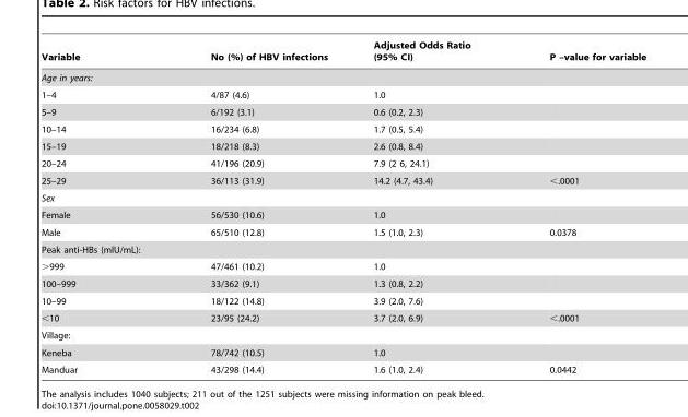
<table><thead><tr><td>Variable</td><td>No (%) of HBV infections</td><td>Adjusted Odds Ratio (95% CI)</td><td>P –value for variable</td></tr></thead><tbody><tr><td colspan="4">Age in years:</td></tr><tr><td>1–4</td><td>4/87 (4.6)</td><td>1.0</td><td></td></tr><tr><td>5–9</td><td>6/192 (3.1)</td><td>0.6 (0.2, 2.3)</td><td></td></tr><tr><td>10–14</td><td>16/234 (6.8)</td><td>1.7 (0.5, 5.4)</td><td></td></tr><tr><td>15–19</td><td>18/218 (8.3)</td><td>2.6 (0.8, 8.4)</td><td></td></tr><tr><td>20–24</td><td>41/196 (20.9)</td><td>7.9 (2 6, 24.1)</td><td></td></tr><tr><td>25–29</td><td>36/113 (31.9)</td><td>14.2 (4.7, 43.4)</td><td>&lt;.0001</td></tr><tr><td colspan="4">Sex</td></tr><tr><td>Female</td><td>56/530 (10.6)</td><td>1.0</td><td></td></tr><tr><td>Male</td><td>65/510 (12.8)</td><td>1.5 (1.0, 2.3)</td><td>0.0378</td></tr><tr><td colspan="4">Peak anti-HBs (mlU/mL):</td></tr><tr><td>&gt;999</td><td>47/461 (10.2)</td><td>1.0</td><td></td></tr><tr><td>100–999</td><td>33/362 (9.1)</td><td>1.3 (0.8, 2.2)</td><td></td></tr><tr><td>10–99</td><td>18/122 (14.8)</td><td>3.9 (2.0, 7.6)</td><td></td></tr><tr><td>&lt;10</td><td>23/95 (24.2)</td><td>3.7 (2.0, 6.9)</td><td>&lt;.0001</td></tr><tr><td colspan="4">Village:</td></tr><tr><td>Keneba</td><td>78/742 (10.5)</td><td>1.0</td><td></td></tr><tr><td>Manduar</td><td>43/298 (14.4)</td><td>1.6 (1.0, 2.4)</td><td>0.0442</td></tr></tbody></table>